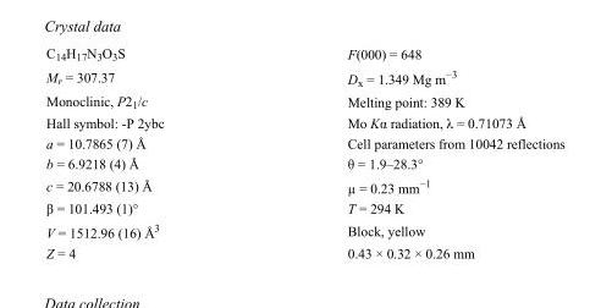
<table><tbody><tr><td>C<sub>14</sub>H<sub>17</sub>N<sub>3</sub>O<sub>3</sub>S</td><td>F(000) = 648</td></tr><tr><td>M<sub>r</sub> = 307.37</td><td>D<sub>x</sub> = 1.349 Mg m<sup>−3</sup></td></tr><tr><td>Monoclinic, P2<sub>1</sub>/c</td><td>Melting point: 389 K</td></tr><tr><td>Hall symbol: -P 2ybc</td><td>Mo Kα radiation, λ = 0.71073 Å</td></tr><tr><td>a = 10.7865 (7) Å</td><td>Cell parameters from 10042 reflections</td></tr><tr><td>b = 6.9218 (4) Å</td><td>θ = 1.9–28.3°</td></tr><tr><td>c = 20.6788 (13) Å</td><td>µ = 0.23 mm<sup>−1</sup></td></tr><tr><td>β = 101.493 (1)°</td><td>T = 294 K</td></tr><tr><td>V = 1512.96 (16) Å<sup>3</sup></td><td>Block, yellow</td></tr><tr><td>Z = 4</td><td>0.43 × 0.32 × 0.26 mm</td></tr></tbody></table>